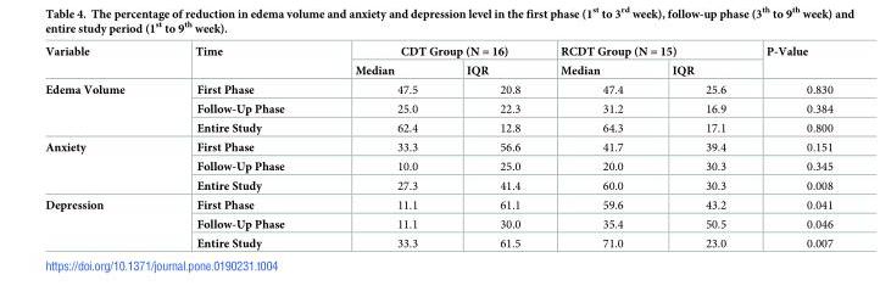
<table><thead><tr><td rowspan="2">Variable</td><td rowspan="2">Time</td><td colspan="2">CDT Group (N = 16)</td><td colspan="2">RCDT Group (N = 15)</td><td rowspan="2">P-Value</td></tr><tr><td>Median</td><td>IQR</td><td>Median</td><td>IQR</td></tr></thead><tbody><tr><td rowspan="3">Edema Volume</td><td>First Phase</td><td>47.5</td><td>20.8</td><td>47.4</td><td>25.6</td><td>0.830</td></tr><tr><td>Follow-Up Phase</td><td>25.0</td><td>22.3</td><td>31.2</td><td>16.9</td><td>0.384</td></tr><tr><td>Entire Study</td><td>62.4</td><td>12.8</td><td>64.3</td><td>17.1</td><td>0.800</td></tr><tr><td rowspan="3">Anxiety</td><td>First Phase</td><td>33.3</td><td>56.6</td><td>41.7</td><td>39.4</td><td>0.151</td></tr><tr><td>Follow-Up Phase</td><td>10.0</td><td>25.0</td><td>20.0</td><td>30.3</td><td>0.345</td></tr><tr><td>Entire Study</td><td>27.3</td><td>41.4</td><td>60.0</td><td>30.3</td><td>0.008</td></tr><tr><td rowspan="3">Depression</td><td>First Phase</td><td>11.1</td><td>61.1</td><td>59.6</td><td>43.2</td><td>0.041</td></tr><tr><td>Follow-Up Phase</td><td>11.1</td><td>30.0</td><td>35.4</td><td>50.5</td><td>0.046</td></tr><tr><td>Entire Study</td><td>33.3</td><td>61.5</td><td>71.0</td><td>23.0</td><td>0.007</td></tr></tbody></table>